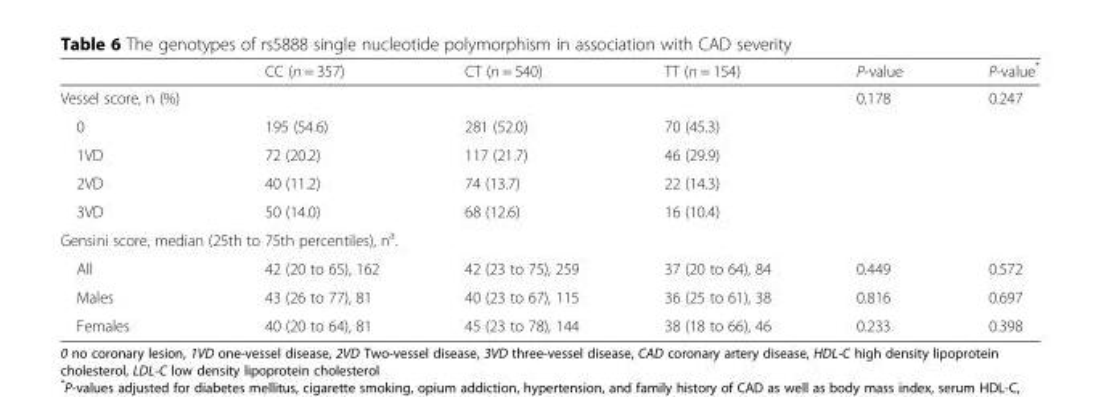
<table><thead><tr><td></td><td>CC (n = 357)</td><td>CT (n = 540)</td><td>TT (n = 154)</td><td>P-value</td><td>P-value*</td></tr></thead><tbody><tr><td>Vessel score, n (%)</td><td></td><td></td><td></td><td>0.178</td><td>0.247</td></tr><tr><td>0</td><td>195 (54.6)</td><td>281 (52.0)</td><td>70 (45.3)</td><td></td><td></td></tr><tr><td>1VD</td><td>72 (20.2)</td><td>117 (21.7)</td><td>46 (29.9)</td><td></td><td></td></tr><tr><td>2VD</td><td>40 (11.2)</td><td>74 (13.7)</td><td>22 (14.3)</td><td></td><td></td></tr><tr><td>3VD</td><td>50 (14.0)</td><td>68 (12.6)</td><td>16 (10.4)</td><td></td><td></td></tr><tr><td colspan="6">Gensini score, median (25th to 75th percentiles), n<sup>a</sup>.</td></tr><tr><td>All</td><td>42 (20 to 65), 162</td><td>42 (23 to 75), 259</td><td>37 (20 to 64), 84</td><td>0.449</td><td>0.572</td></tr><tr><td>Males</td><td>43 (26 to 77), 81</td><td>40 (23 to 67), 115</td><td>36 (25 to 61), 38</td><td>0.816</td><td>0.697</td></tr><tr><td>Females</td><td>40 (20 to 64), 81</td><td>45 (23 to 78), 144</td><td>38 (18 to 66), 46</td><td>0.233</td><td>0.398</td></tr></tbody></table>